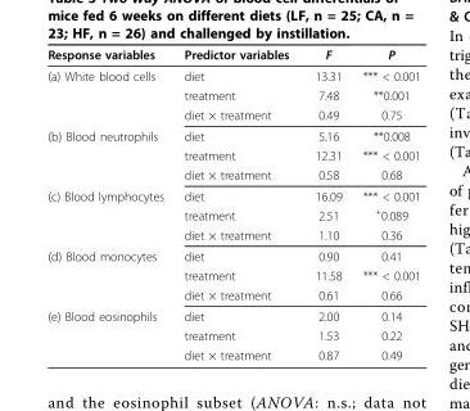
<table><thead><tr><td>Response variables</td><td>Predictor variables</td><td>F</td><td>P</td></tr></thead><tbody><tr><td rowspan="3">(a) White blood cells</td><td>diet</td><td>13.31</td><td>*** &lt; 0.001</td></tr><tr><td>treatment</td><td>7.48</td><td>**0.001</td></tr><tr><td>diet × treatment</td><td>0.49</td><td>0.75</td></tr><tr><td rowspan="3">(b) Blood neutrophils</td><td>diet</td><td>5.16</td><td>**0.008</td></tr><tr><td>treatment</td><td>12.31</td><td>*** &lt; 0.001</td></tr><tr><td>diet × treatment</td><td>0.58</td><td>0.68</td></tr><tr><td rowspan="3">(c) Blood lymphocytes</td><td>diet</td><td>16.09</td><td>*** &lt; 0.001</td></tr><tr><td>treatment</td><td>2.51</td><td><sup>+</sup>0.089</td></tr><tr><td>diet × treatment</td><td>1.10</td><td>0.36</td></tr><tr><td rowspan="3">(d) Blood monocytes</td><td>diet</td><td>0.90</td><td>0.41</td></tr><tr><td>treatment</td><td>11.58</td><td>*** &lt; 0.001</td></tr><tr><td>diet × treatment</td><td>0.61</td><td>0.66</td></tr><tr><td rowspan="3">(e) Blood eosinophils</td><td>diet</td><td>2.00</td><td>0.14</td></tr><tr><td>treatment</td><td>1.53</td><td>0.22</td></tr><tr><td>diet × treatment</td><td>0.87</td><td>0.49</td></tr></tbody></table>